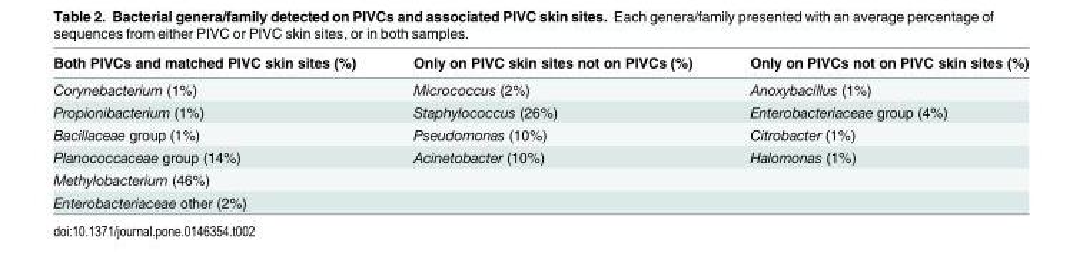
<table><thead><tr><td>Both PIVCs and matched PIVC skin sites (%)</td><td>Only on PIVC skin sites not on PIVCs (%)</td><td>Only on PIVCs not on PIVC skin sites (%)</td></tr></thead><tbody><tr><td>Corynebacterium (1%)</td><td>Micrococcus (2%)</td><td>Anoxybacillus (1%)</td></tr><tr><td>Propionibacterium (1%)</td><td>Staphylococcus (26%)</td><td>Enterobacteriaceae group (4%)</td></tr><tr><td>Bacillaceae group (1%)</td><td>Pseudomonas (10%)</td><td>Citrobacter (1%)</td></tr><tr><td>Planococcaceae group (14%)</td><td>Acinetobacter (10%)</td><td>Halomonas (1%)</td></tr><tr><td colspan="3">Methylobacterium (46%)</td></tr><tr><td>Enterobacteriaceae other (2%)</td><td></td><td></td></tr></tbody></table>